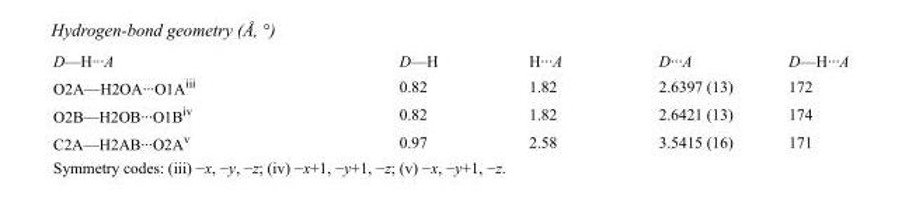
<table><tbody><tr><td>D—H···A</td><td>D—H</td><td>H···A</td><td>D···A</td><td>D—H···A</td></tr><tr><td>O2A—H2OA···O1A<sup>iii</sup></td><td>0.82</td><td>1.82</td><td>2.6397 (13)</td><td>172</td></tr><tr><td>O2B—H2OB···O1B<sup>iv</sup></td><td>0.82</td><td>1.82</td><td>2.6421 (13)</td><td>174</td></tr><tr><td>C2A—H2AB···O2A<sup>v</sup></td><td>0.97</td><td>2.58</td><td>3.5415 (16)</td><td>171</td></tr></tbody></table>